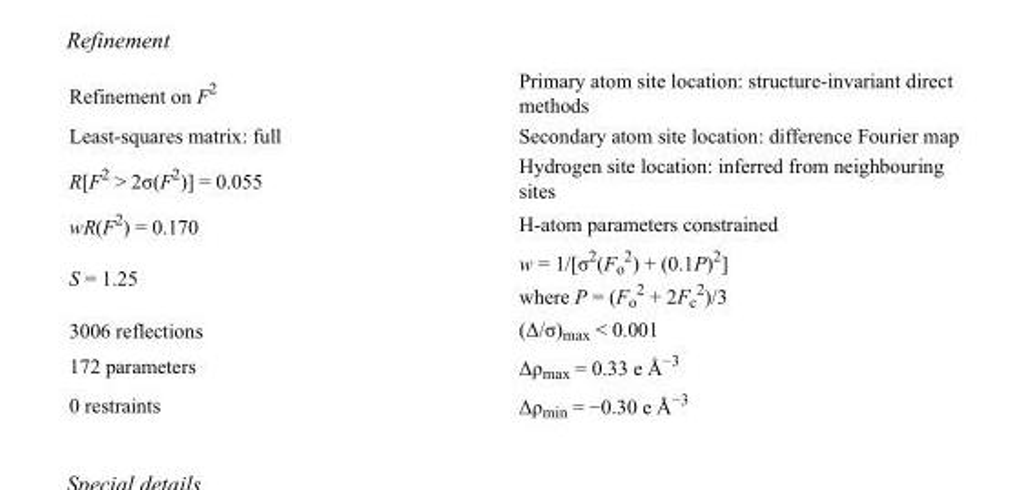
<table><tbody><tr><td>Refinement on F<sup>2</sup></td><td>Primary atom site location: structure-invariant direct methods</td></tr><tr><td>Least-squares matrix: full</td><td>Secondary atom site location: difference Fourier map</td></tr><tr><td>R[F<sup>2</sup> &gt; 2σ(F<sup>2</sup>)] = 0.055</td><td>Hydrogen site location: inferred from neighbouring sites</td></tr><tr><td>wR(F<sup>2</sup>) = 0.170</td><td>H-atom parameters constrained</td></tr><tr><td>S = 1.25</td><td>w = 1/[σ<sup>2</sup>(F<sub>o</sub> <sup>2</sup>) + (0.1P)<sup>2</sup>] where P = (F<sub>o</sub> <sup>2</sup> + 2F<sub>c</sub> <sup>2</sup>)/3</td></tr><tr><td>3006 reflections</td><td>(Δ/σ)<sub>max</sub> &lt; 0.001</td></tr><tr><td>172 parameters</td><td>Δρ<sub>max</sub> = 0.33 e Å<sup>−3</sup></td></tr><tr><td>0 restraints</td><td>Δρ<sub>min</sub> = −0.30 e Å<sup>−3</sup></td></tr></tbody></table>